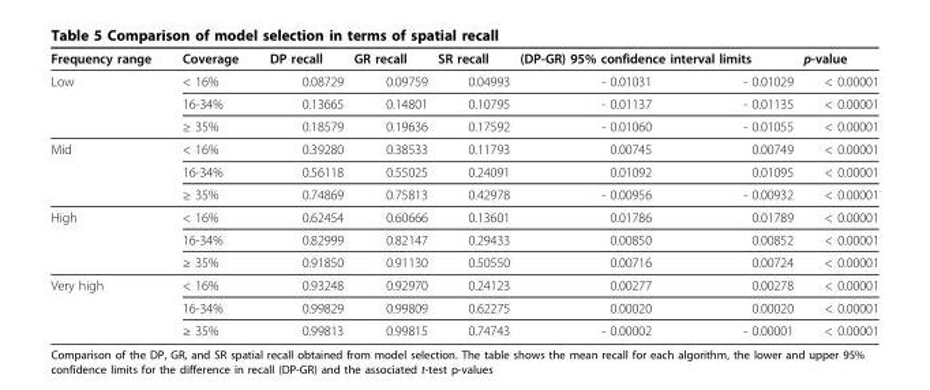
<table><thead><tr><td rowspan="2">Frequency range Low</td><td rowspan="2">Coverage &lt; 16%</td><td rowspan="2">DP recall 0.08729</td><td rowspan="2">GR recall 0.09759</td><td rowspan="2">SR recall 0.04993</td><td colspan="2">(DP-GR) 95% confidence interval limits</td><td rowspan="2">p-value &lt; 0.00001</td></tr><tr><td>- 0.01031</td><td>- 0.01029</td></tr></thead><tbody><tr><td></td><td>16-34%</td><td>0.13665</td><td>0.14801</td><td>0.10795</td><td>- 0.01137</td><td>- 0.01135</td><td>&lt; 0.00001</td></tr><tr><td></td><td>≥ 35%</td><td>0.18579</td><td>0.19636</td><td>0.17592</td><td>- 0.01060</td><td>- 0.01055</td><td>&lt; 0.00001</td></tr><tr><td rowspan="3">Mid</td><td>&lt; 16%</td><td>0.39280</td><td>0.38533</td><td>0.11793</td><td>0.00745</td><td>0.00749</td><td>&lt; 0.00001</td></tr><tr><td>16-34%</td><td>0.56118</td><td>0.55025</td><td>0.24091</td><td>0.01092</td><td>0.01095</td><td>&lt; 0.00001</td></tr><tr><td>≥ 35%</td><td>0.74869</td><td>0.75813</td><td>0.42978</td><td>- 0.00956</td><td>- 0.00932</td><td>&lt; 0.00001</td></tr><tr><td rowspan="3">High</td><td>&lt; 16%</td><td>0.62454</td><td>0.60666</td><td>0.13601</td><td>0.01786</td><td>0.01789</td><td>&lt; 0.00001</td></tr><tr><td>16-34%</td><td>0.82999</td><td>0.82147</td><td>0.29433</td><td>0.00850</td><td>0.00852</td><td>&lt; 0.00001</td></tr><tr><td>≥ 35%</td><td>0.91850</td><td>0.91130</td><td>0.50550</td><td>0.00716</td><td>0.00724</td><td>&lt; 0.00001</td></tr><tr><td rowspan="3">Very high</td><td>&lt; 16%</td><td>0.93248</td><td>0.92970</td><td>0.24123</td><td>0.00277</td><td>0.00278</td><td>&lt; 0.00001</td></tr><tr><td>16-34%</td><td>0.99829</td><td>0.99809</td><td>0.62275</td><td>0.00020</td><td>0.00020</td><td>&lt; 0.00001</td></tr><tr><td>≥ 35%</td><td>0.99813</td><td>0.99815</td><td>0.74743</td><td>- 0.00002</td><td>- 0.00001</td><td>&lt; 0.00001</td></tr></tbody></table>